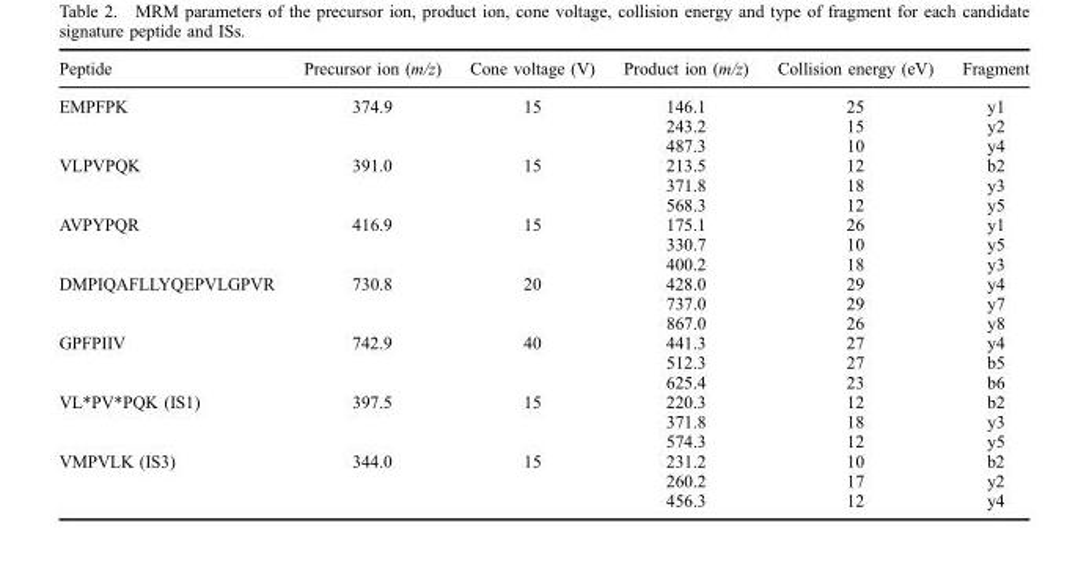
<table><thead><tr><td>Peptide</td><td>Precursor ion (m/z)</td><td>Cone voltage (V)</td><td>Product ion (m/z)</td><td>Collision energy (eV)</td><td>Fragment</td></tr></thead><tbody><tr><td rowspan="3">EMPFPK</td><td rowspan="3">374.9</td><td rowspan="3">15</td><td>146.1</td><td>25</td><td>y1</td></tr><tr><td>243.2</td><td>15</td><td>y2</td></tr><tr><td>487.3</td><td>10</td><td>y4</td></tr><tr><td rowspan="3">VLPVPQK</td><td rowspan="3">391.0</td><td rowspan="3">15</td><td>213.5</td><td>12</td><td>b2</td></tr><tr><td>371.8</td><td>18</td><td>y3</td></tr><tr><td>568.3</td><td>12</td><td>y5</td></tr><tr><td rowspan="3">AVPYPQR</td><td rowspan="3">416.9</td><td rowspan="3">15</td><td>175.1</td><td>26</td><td>y1</td></tr><tr><td>330.7</td><td>10</td><td>y5</td></tr><tr><td>400.2</td><td>18</td><td>y3</td></tr><tr><td rowspan="3">DMPIQAFLLYQEPVLGPVR</td><td rowspan="3">730.8</td><td rowspan="3">20</td><td>428.0</td><td>29</td><td>y4</td></tr><tr><td>737.0</td><td>29</td><td>y7</td></tr><tr><td>867.0</td><td>26</td><td>y8</td></tr><tr><td rowspan="3">GPFPIIV</td><td rowspan="3">742.9</td><td rowspan="3">40</td><td>441.3</td><td>27</td><td>y4</td></tr><tr><td>512.3</td><td>27</td><td>b5</td></tr><tr><td>625.4</td><td>23</td><td>b6</td></tr><tr><td rowspan="3">VL*PV*PQK (IS1)</td><td rowspan="3">397.5</td><td rowspan="3">15</td><td>220.3</td><td>12</td><td>b2</td></tr><tr><td>371.8</td><td>18</td><td>y3</td></tr><tr><td>574.3</td><td>12</td><td>y5</td></tr><tr><td rowspan="3">VMPVLK (IS3)</td><td rowspan="3">344.0</td><td rowspan="3">15</td><td>231.2</td><td>10</td><td>b2</td></tr><tr><td>260.2</td><td>17</td><td>y2</td></tr><tr><td>456.3</td><td>12</td><td>y4</td></tr></tbody></table>